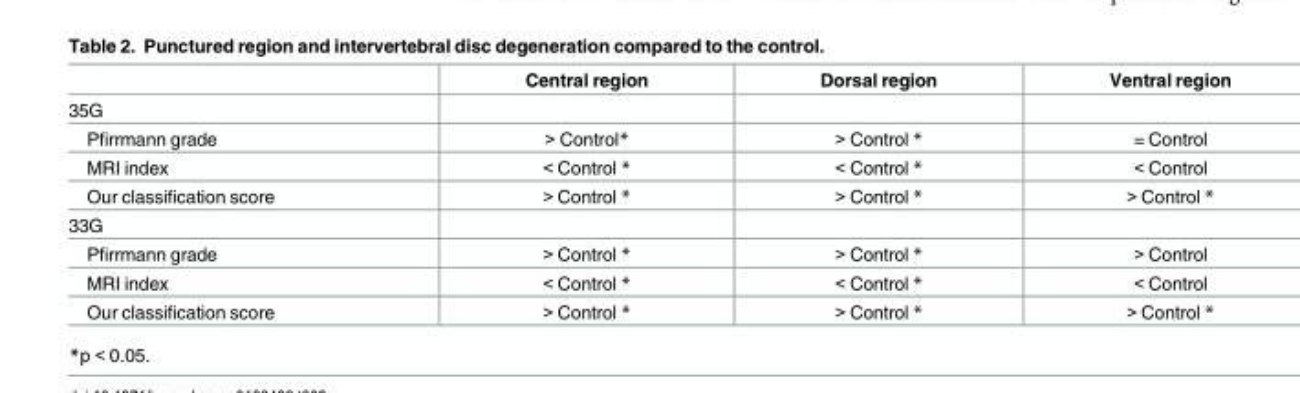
<table><thead><tr><td></td><td>Central region</td><td>Dorsal region</td><td>Ventral region</td></tr></thead><tbody><tr><td colspan="4">35G</td></tr><tr><td>Pfirrmann grade</td><td>&gt; Control*</td><td>&gt; Control *</td><td>= Control</td></tr><tr><td>MRI index</td><td>&lt; Control *</td><td>&lt; Control *</td><td>&lt; Control</td></tr><tr><td>Our classification score</td><td>&gt; Control *</td><td>&gt; Control *</td><td>&gt; Control *</td></tr><tr><td colspan="4">33G</td></tr><tr><td>Pfirrmann grade</td><td>&gt; Control *</td><td>&gt; Control *</td><td>&gt; Control</td></tr><tr><td>MRI index</td><td>&lt; Control *</td><td>&lt; Control *</td><td>&lt; Control</td></tr><tr><td>Our classification score</td><td>&gt; Control *</td><td>&gt; Control *</td><td>&gt; Control *</td></tr></tbody></table>